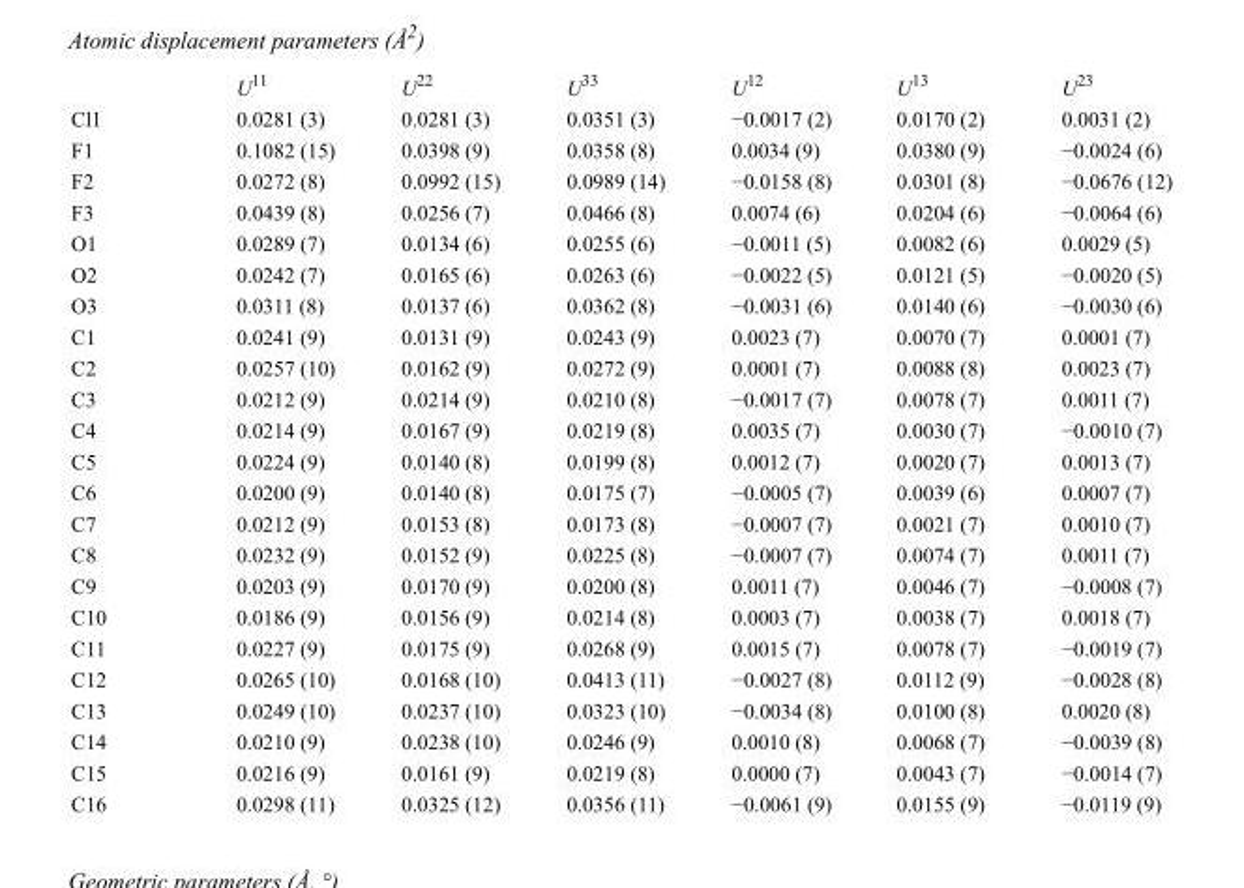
<table><thead><tr><td></td><td>U<sup>11</sup></td><td>U<sup>22</sup></td><td>U<sup>33</sup></td><td>U<sup>12</sup></td><td>U<sup>13</sup></td><td>U<sup>23</sup></td></tr></thead><tbody><tr><td>Cl1</td><td>0.0281 (3)</td><td>0.0281 (3)</td><td>0.0351 (3)</td><td>−0.0017 (2)</td><td>0.0170 (2)</td><td>0.0031 (2)</td></tr><tr><td>F1</td><td>0.1082 (15)</td><td>0.0398 (9)</td><td>0.0358 (8)</td><td>0.0034 (9)</td><td>0.0380 (9)</td><td>−0.0024 (6)</td></tr><tr><td>F2</td><td>0.0272 (8)</td><td>0.0992 (15)</td><td>0.0989 (14)</td><td>−0.0158 (8)</td><td>0.0301 (8)</td><td>−0.0676 (12)</td></tr><tr><td>F3</td><td>0.0439 (8)</td><td>0.0256 (7)</td><td>0.0466 (8)</td><td>0.0074 (6)</td><td>0.0204 (6)</td><td>−0.0064 (6)</td></tr><tr><td>O1</td><td>0.0289 (7)</td><td>0.0134 (6)</td><td>0.0255 (6)</td><td>−0.0011 (5)</td><td>0.0082 (6)</td><td>0.0029 (5)</td></tr><tr><td>O2</td><td>0.0242 (7)</td><td>0.0165 (6)</td><td>0.0263 (6)</td><td>−0.0022 (5)</td><td>0.0121 (5)</td><td>−0.0020 (5)</td></tr><tr><td>O3</td><td>0.0311 (8)</td><td>0.0137 (6)</td><td>0.0362 (8)</td><td>−0.0031 (6)</td><td>0.0140 (6)</td><td>−0.0030 (6)</td></tr><tr><td>C1</td><td>0.0241 (9)</td><td>0.0131 (9)</td><td>0.0243 (9)</td><td>0.0023 (7)</td><td>0.0070 (7)</td><td>0.0001 (7)</td></tr><tr><td>C2</td><td>0.0257 (10)</td><td>0.0162 (9)</td><td>0.0272 (9)</td><td>0.0001 (7)</td><td>0.0088 (8)</td><td>0.0023 (7)</td></tr><tr><td>C3</td><td>0.0212 (9)</td><td>0.0214 (9)</td><td>0.0210 (8)</td><td>−0.0017 (7)</td><td>0.0078 (7)</td><td>0.0011 (7)</td></tr><tr><td>C4</td><td>0.0214 (9)</td><td>0.0167 (9)</td><td>0.0219 (8)</td><td>0.0035 (7)</td><td>0.0030 (7)</td><td>−0.0010 (7)</td></tr><tr><td>C5</td><td>0.0224 (9)</td><td>0.0140 (8)</td><td>0.0199 (8)</td><td>0.0012 (7)</td><td>0.0020 (7)</td><td>0.0013 (7)</td></tr><tr><td>C6</td><td>0.0200 (9)</td><td>0.0140 (8)</td><td>0.0175 (7)</td><td>−0.0005 (7)</td><td>0.0039 (6)</td><td>0.0007 (7)</td></tr><tr><td>C7</td><td>0.0212 (9)</td><td>0.0153 (8)</td><td>0.0173 (8)</td><td>−0.0007 (7)</td><td>0.0021 (7)</td><td>0.0010 (7)</td></tr><tr><td>C8</td><td>0.0232 (9)</td><td>0.0152 (9)</td><td>0.0225 (8)</td><td>−0.0007 (7)</td><td>0.0074 (7)</td><td>0.0011 (7)</td></tr><tr><td>C9</td><td>0.0203 (9)</td><td>0.0170 (9)</td><td>0.0200 (8)</td><td>0.0011 (7)</td><td>0.0046 (7)</td><td>−0.0008 (7)</td></tr><tr><td>C10</td><td>0.0186 (9)</td><td>0.0156 (9)</td><td>0.0214 (8)</td><td>0.0003 (7)</td><td>0.0038 (7)</td><td>0.0018 (7)</td></tr><tr><td>C11</td><td>0.0227 (9)</td><td>0.0175 (9)</td><td>0.0268 (9)</td><td>0.0015 (7)</td><td>0.0078 (7)</td><td>−0.0019 (7)</td></tr><tr><td>C12</td><td>0.0265 (10)</td><td>0.0168 (10)</td><td>0.0413 (11)</td><td>−0.0027 (8)</td><td>0.0112 (9)</td><td>−0.0028 (8)</td></tr><tr><td>C13</td><td>0.0249 (10)</td><td>0.0237 (10)</td><td>0.0323 (10)</td><td>−0.0034 (8)</td><td>0.0100 (8)</td><td>0.0020 (8)</td></tr><tr><td>C14</td><td>0.0210 (9)</td><td>0.0238 (10)</td><td>0.0246 (9)</td><td>0.0010 (8)</td><td>0.0068 (7)</td><td>−0.0039 (8)</td></tr><tr><td>C15</td><td>0.0216 (9)</td><td>0.0161 (9)</td><td>0.0219 (8)</td><td>0.0000 (7)</td><td>0.0043 (7)</td><td>−0.0014 (7)</td></tr><tr><td>C16</td><td>0.0298 (11)</td><td>0.0325 (12)</td><td>0.0356 (11)</td><td>−0.0061 (9)</td><td>0.0155 (9)</td><td>−0.0119 (9)</td></tr></tbody></table>